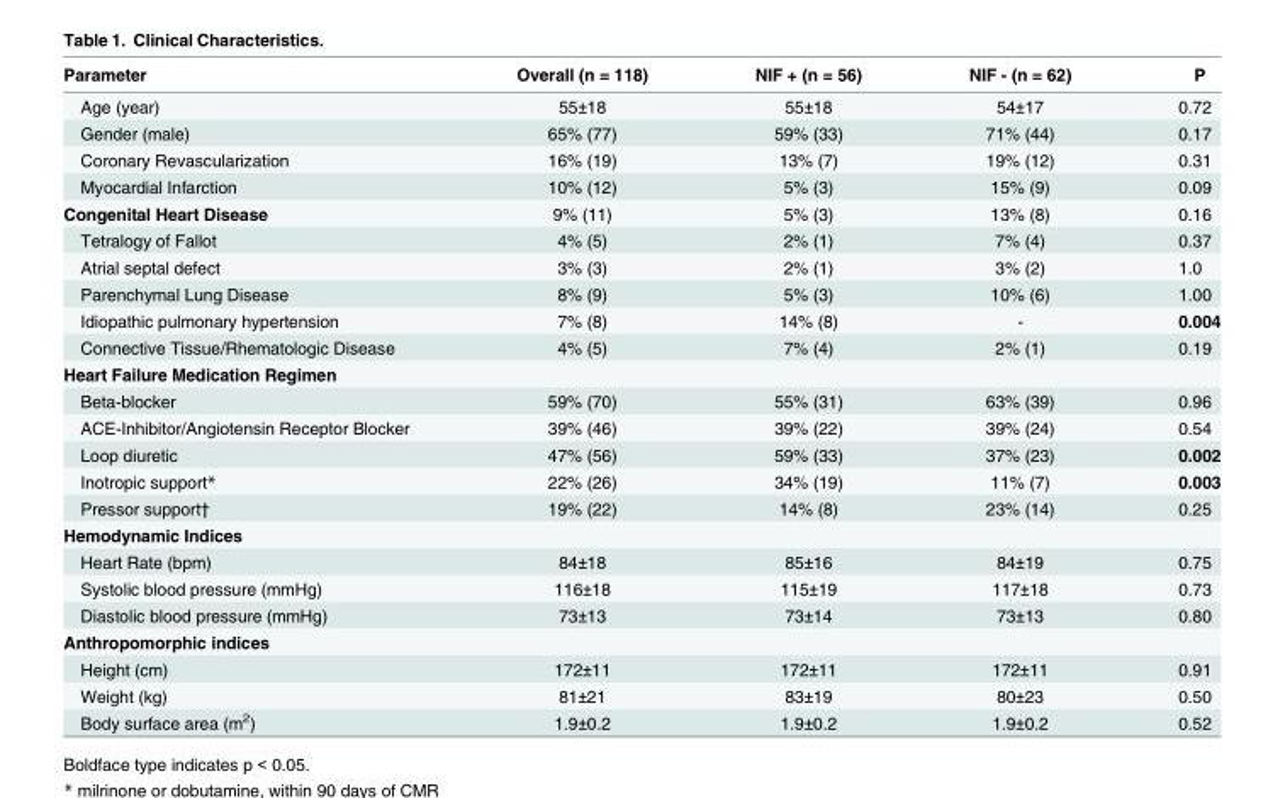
<table><thead><tr><td>Parameter</td><td>Overall (n = 118)</td><td>NIF + (n = 56)</td><td>NIF - (n = 62)</td><td>P</td></tr></thead><tbody><tr><td>Age (year)</td><td>55±18</td><td>55±18</td><td>54±17</td><td>0.72</td></tr><tr><td>Gender (male)</td><td>65% (77)</td><td>59% (33)</td><td>71% (44)</td><td>0.17</td></tr><tr><td>Coronary Revascularization</td><td>16% (19)</td><td>13% (7)</td><td>19% (12)</td><td>0.31</td></tr><tr><td>Myocardial Infarction</td><td>10% (12)</td><td>5% (3)</td><td>15% (9)</td><td>0.09</td></tr><tr><td>Congenital Heart Disease</td><td>9% (11)</td><td>5% (3)</td><td>13% (8)</td><td>0.16</td></tr><tr><td>Tetralogy of Fallot</td><td>4% (5)</td><td>2% (1)</td><td>7% (4)</td><td>0.37</td></tr><tr><td>Atrial septal defect</td><td>3% (3)</td><td>2% (1)</td><td>3% (2)</td><td>1.0</td></tr><tr><td>Parenchymal Lung Disease</td><td>8% (9)</td><td>5% (3)</td><td>10% (6)</td><td>1.00</td></tr><tr><td>Idiopathic pulmonary hypertension</td><td>7% (8)</td><td>14% (8)</td><td>-</td><td>0.004</td></tr><tr><td>Connective Tissue/Rhematologic Disease</td><td>4% (5)</td><td>7% (4)</td><td>2% (1)</td><td>0.19</td></tr><tr><td colspan="5">Heart Failure Medication Regimen</td></tr><tr><td>Beta-blocker</td><td>59% (70)</td><td>55% (31)</td><td>63% (39)</td><td>0.96</td></tr><tr><td>ACE-Inhibitor/Angiotensin Receptor Blocker</td><td>39% (46)</td><td>39% (22)</td><td>39% (24)</td><td>0.54</td></tr><tr><td>Loop diuretic</td><td>47% (56)</td><td>59% (33)</td><td>37% (23)</td><td>0.002</td></tr><tr><td>Inotropic support*</td><td>22% (26)</td><td>34% (19)</td><td>11% (7)</td><td>0.003</td></tr><tr><td>Pressor support†</td><td>19% (22)</td><td>14% (8)</td><td>23% (14)</td><td>0.25</td></tr><tr><td colspan="5">Hemodynamic Indices</td></tr><tr><td>Heart Rate (bpm)</td><td>84±18</td><td>85±16</td><td>84±19</td><td>0.75</td></tr><tr><td>Systolic blood pressure (mmHg)</td><td>116±18</td><td>115±19</td><td>117±18</td><td>0.73</td></tr><tr><td>Diastolic blood pressure (mmHg)</td><td>73±13</td><td>73±14</td><td>73±13</td><td>0.80</td></tr><tr><td colspan="5">Anthropomorphic indices</td></tr><tr><td>Height (cm)</td><td>172±11</td><td>172±11</td><td>172±11</td><td>0.91</td></tr><tr><td>Weight (kg)</td><td>81±21</td><td>83±19</td><td>80±23</td><td>0.50</td></tr><tr><td>Body surface area (m<sup>2</sup>)</td><td>1.9±0.2</td><td>1.9±0.2</td><td>1.9±0.2</td><td>0.52</td></tr></tbody></table>